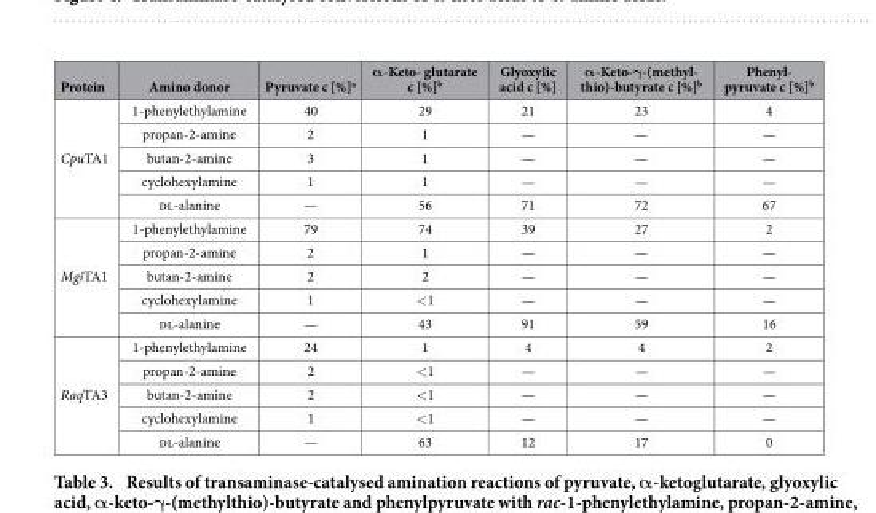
<table><thead><tr><td>Protein</td><td>Amino donor</td><td>Pyruvate c [%]<sup>a</sup></td><td>α-Keto- glutarate c [%]<sup>b</sup></td><td>Glyoxylic acid c [%]</td><td>α-Keto-γ-(methyl- thio)-butyrate c [%]<sup>b</sup></td><td>Phenyl- pyruvate c [%]<sup>b</sup></td></tr></thead><tbody><tr><td rowspan="5">CpuTA1</td><td>1-phenylethylamine</td><td>40</td><td>29</td><td>21</td><td>23</td><td>4</td></tr><tr><td>propan-2-amine</td><td>2</td><td>1</td><td>—</td><td>—</td><td>—</td></tr><tr><td>butan-2-amine</td><td>3</td><td>1</td><td>—</td><td>—</td><td>—</td></tr><tr><td>cyclohexylamine</td><td>1</td><td>1</td><td>—</td><td>—</td><td>—</td></tr><tr><td>dl-alanine</td><td>—</td><td>56</td><td>71</td><td>72</td><td>67</td></tr><tr><td rowspan="5">MgiTA1</td><td>1-phenylethylamine</td><td>79</td><td>74</td><td>39</td><td>27</td><td>2</td></tr><tr><td>propan-2-amine</td><td>2</td><td>1</td><td>—</td><td>—</td><td>—</td></tr><tr><td>butan-2-amine</td><td>2</td><td>2</td><td>—</td><td>—</td><td>—</td></tr><tr><td>cyclohexylamine</td><td>1</td><td>&lt; 1</td><td>—</td><td>—</td><td>—</td></tr><tr><td>dl-alanine</td><td>—</td><td>43</td><td>91</td><td>59</td><td>16</td></tr><tr><td rowspan="5">RaqTA3</td><td>1-phenylethylamine</td><td>24</td><td>1</td><td>4</td><td>4</td><td>2</td></tr><tr><td>propan-2-amine</td><td>2</td><td>&lt; 1</td><td>—</td><td>—</td><td>—</td></tr><tr><td>butan-2-amine</td><td>2</td><td>&lt; 1</td><td>—</td><td>—</td><td>—</td></tr><tr><td>cyclohexylamine</td><td>1</td><td>&lt; 1</td><td>—</td><td>—</td><td>—</td></tr><tr><td>dl-alanine</td><td>—</td><td>63</td><td>12</td><td>17</td><td>0</td></tr></tbody></table>